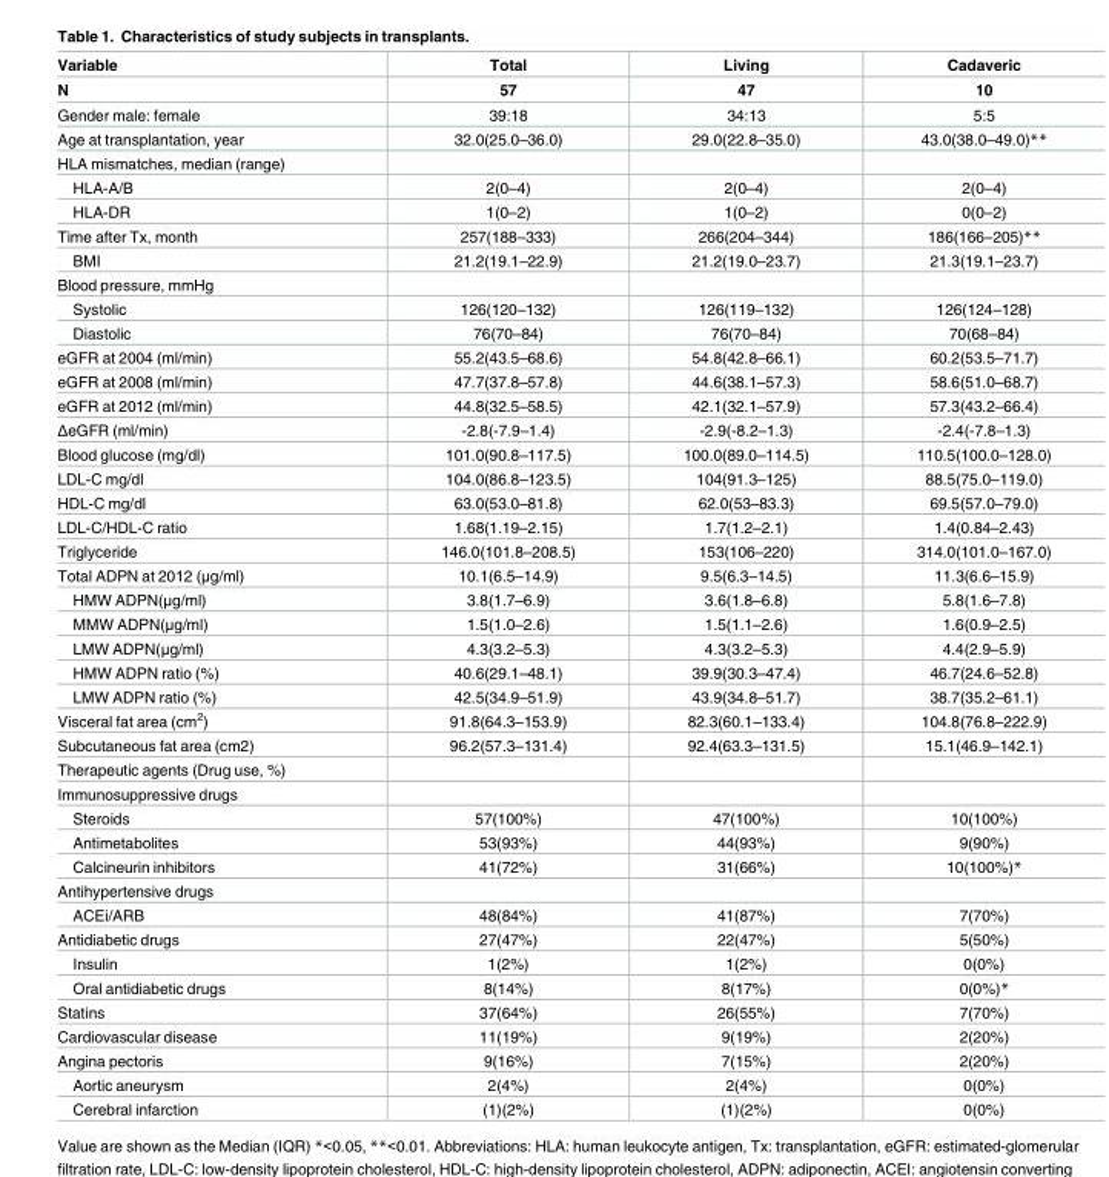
<table><thead><tr><td rowspan="2">Variable N</td><td rowspan="2">Total 57</td><td rowspan="2">Living 47</td><td rowspan="2">Cadaveric 10</td></tr><tr></tr></thead><tbody><tr><td>Gender male: female</td><td>39:18</td><td>34:13</td><td>5:5</td></tr><tr><td>Age at transplantation, year</td><td>32.0(25.0–36.0)</td><td>29.0(22.8–35.0)</td><td>43.0(38.0–49.0)**</td></tr><tr><td colspan="4">HLA mismatches, median (range)</td></tr><tr><td>HLA-A/B</td><td>2(0–4)</td><td>2(0–4)</td><td>2(0–4)</td></tr><tr><td>HLA-DR</td><td>1(0–2)</td><td>1(0–2)</td><td>0(0–2)</td></tr><tr><td>Time after Tx, month</td><td>257(188–333)</td><td>266(204–344)</td><td>186(166–205)**</td></tr><tr><td>BMI</td><td>21.2(19.1–22.9)</td><td>21.2(19.0–23.7)</td><td>21.3(19.1–23.7)</td></tr><tr><td colspan="4">Blood pressure, mmHg</td></tr><tr><td>Systolic</td><td>126(120–132)</td><td>126(119–132)</td><td>126(124–128)</td></tr><tr><td>Diastolic</td><td>76(70–84)</td><td>76(70–84)</td><td>70(68–84)</td></tr><tr><td>eGFR at 2004 (ml/min)</td><td>55.2(43.5–68.6)</td><td>54.8(42.8–66.1)</td><td>60.2(53.5–71.7)</td></tr><tr><td>eGFR at 2008 (ml/min)</td><td>47.7(37.8–57.8)</td><td>44.6(38.1–57.3)</td><td>58.6(51.0–68.7)</td></tr><tr><td>eGFR at 2012 (ml/min)</td><td>44.8(32.5–58.5)</td><td>42.1(32.1–57.9)</td><td>57.3(43.2–66.4)</td></tr><tr><td>ΔeGFR (ml/min)</td><td>-2.8(-7.9–1.4)</td><td>-2.9(-8.2–1.3)</td><td>-2.4(-7.8–1.3)</td></tr><tr><td>Blood glucose (mg/dl)</td><td>101.0(90.8–117.5)</td><td>100.0(89.0–114.5)</td><td>110.5(100.0–128.0)</td></tr><tr><td>LDL-C mg/dl</td><td>104.0(86.8–123.5)</td><td>104(91.3–125)</td><td>88.5(75.0–119.0)</td></tr><tr><td>HDL-C mg/dl</td><td>63.0(53.0–81.8)</td><td>62.0(53–83.3)</td><td>69.5(57.0–79.0)</td></tr><tr><td>LDL-C/HDL-C ratio</td><td>1.68(1.19–2.15)</td><td>1.7(1.2–2.1)</td><td>1.4(0.84–2.43)</td></tr><tr><td>Triglyceride</td><td>146.0(101.8–208.5)</td><td>153(106–220)</td><td>314.0(101.0–167.0)</td></tr><tr><td>Total ADPN at 2012 (μg/ml)</td><td>10.1(6.5–14.9)</td><td>9.5(6.3–14.5)</td><td>11.3(6.6–15.9)</td></tr><tr><td>HMW ADPN(μg/ml)</td><td>3.8(1.7–6.9)</td><td>3.6(1.8–6.8)</td><td>5.8(1.6–7.8)</td></tr><tr><td>MMW ADPN(μg/ml)</td><td>1.5(1.0–2.6)</td><td>1.5(1.1–2.6)</td><td>1.6(0.9–2.5)</td></tr><tr><td>LMW ADPN(μg/ml)</td><td>4.3(3.2–5.3)</td><td>4.3(3.2–5.3)</td><td>4.4(2.9–5.9)</td></tr><tr><td>HMW ADPN ratio (%)</td><td>40.6(29.1–48.1)</td><td>39.9(30.3–47.4)</td><td>46.7(24.6–52.8)</td></tr><tr><td>LMW ADPN ratio (%)</td><td>42.5(34.9–51.9)</td><td>43.9(34.8–51.7)</td><td>38.7(35.2–61.1)</td></tr><tr><td>Visceral fat area (cm<sup>2</sup>)</td><td>91.8(64.3–153.9)</td><td>82.3(60.1–133.4)</td><td>104.8(76.8–222.9)</td></tr><tr><td>Subcutaneous fat area (cm2)</td><td>96.2(57.3–131.4)</td><td>92.4(63.3–131.5)</td><td>15.1(46.9–142.1)</td></tr><tr><td colspan="4">Therapeutic agents (Drug use, %)</td></tr><tr><td colspan="4">Immunosuppressive drugs</td></tr><tr><td>Steroids</td><td>57(100%)</td><td>47(100%)</td><td>10(100%)</td></tr><tr><td>Antimetabolites</td><td>53(93%)</td><td>44(93%)</td><td>9(90%)</td></tr><tr><td>Calcineurin inhibitors</td><td>41(72%)</td><td>31(66%)</td><td>10(100%)*</td></tr><tr><td colspan="4">Antihypertensive drugs</td></tr><tr><td>ACEi/ARB</td><td>48(84%)</td><td>41(87%)</td><td>7(70%)</td></tr><tr><td>Antidiabetic drugs</td><td>27(47%)</td><td>22(47%)</td><td>5(50%)</td></tr><tr><td>Insulin</td><td>1(2%)</td><td>1(2%)</td><td>0(0%)</td></tr><tr><td>Oral antidiabetic drugs</td><td>8(14%)</td><td>8(17%)</td><td>0(0%)*</td></tr><tr><td>Statins</td><td>37(64%)</td><td>26(55%)</td><td>7(70%)</td></tr><tr><td>Cardiovascular disease</td><td>11(19%)</td><td>9(19%)</td><td>2(20%)</td></tr><tr><td>Angina pectoris</td><td>9(16%)</td><td>7(15%)</td><td>2(20%)</td></tr><tr><td>Aortic aneurysm</td><td>2(4%)</td><td>2(4%)</td><td>0(0%)</td></tr><tr><td>Cerebral infarction</td><td>(1)(2%)</td><td>(1)(2%)</td><td>0(0%)</td></tr></tbody></table>